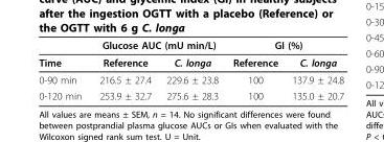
<table><thead><tr><td rowspan="2">Time</td><td colspan="2">Glucose AUC (mU min/L)</td><td colspan="2">GI (%)</td></tr><tr><td>Reference</td><td>C. longa</td><td>Reference</td><td>C. longa</td></tr></thead><tbody><tr><td>0-90 min</td><td>216.5 ± 27.4</td><td>229.6 ± 23.8</td><td>100</td><td>137.9 ± 24.8</td></tr><tr><td>0-120 min</td><td>253.9 ± 32.7</td><td>275.6 ± 28.3</td><td>100</td><td>135.0 ± 20.7</td></tr></tbody></table>